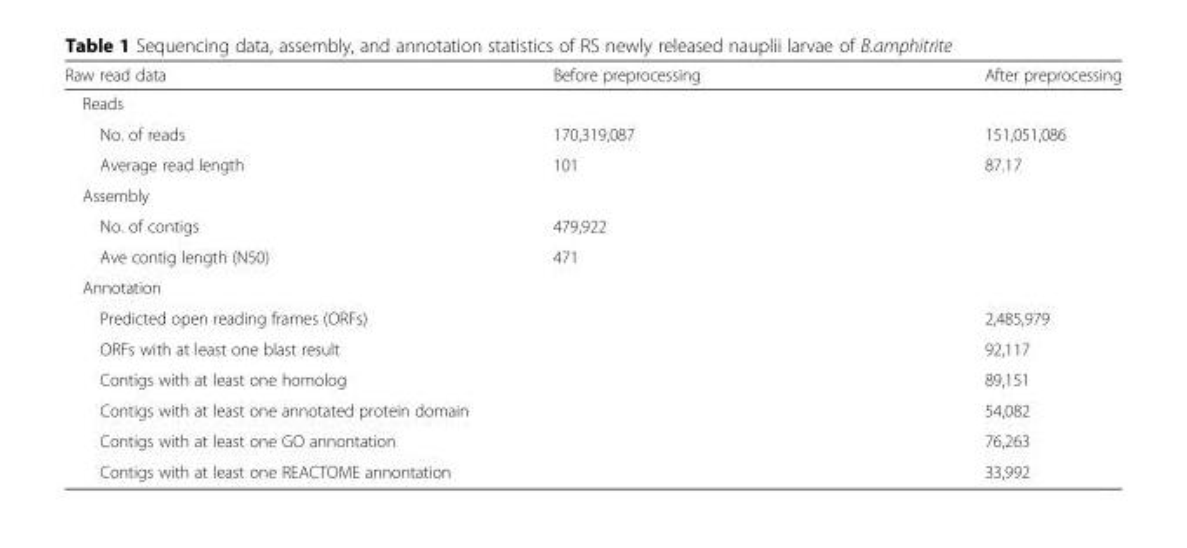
<table><thead><tr><td>Raw read data</td><td>Before preprocessing</td><td>After preprocessing</td></tr></thead><tbody><tr><td colspan="3">Reads</td></tr><tr><td>No. of reads</td><td>170,319,087</td><td>151,051,086</td></tr><tr><td>Average read length</td><td>101</td><td>87.17</td></tr><tr><td colspan="3">Assembly</td></tr><tr><td>No. of contigs</td><td colspan="2">479,922</td></tr><tr><td>Ave contig length (N50)</td><td colspan="2">471</td></tr><tr><td colspan="3">Annotation</td></tr><tr><td colspan="2">Predicted open reading frames (ORFs)</td><td>2,485,979</td></tr><tr><td colspan="2">ORFs with at least one blast result</td><td>92,117</td></tr><tr><td colspan="2">Contigs with at least one homolog</td><td>89,151</td></tr><tr><td colspan="2">Contigs with at least one annotated protein domain</td><td>54,082</td></tr><tr><td colspan="2">Contigs with at least one GO annontation</td><td>76,263</td></tr><tr><td colspan="2">Contigs with at least one REACTOME annontation</td><td>33,992</td></tr></tbody></table>